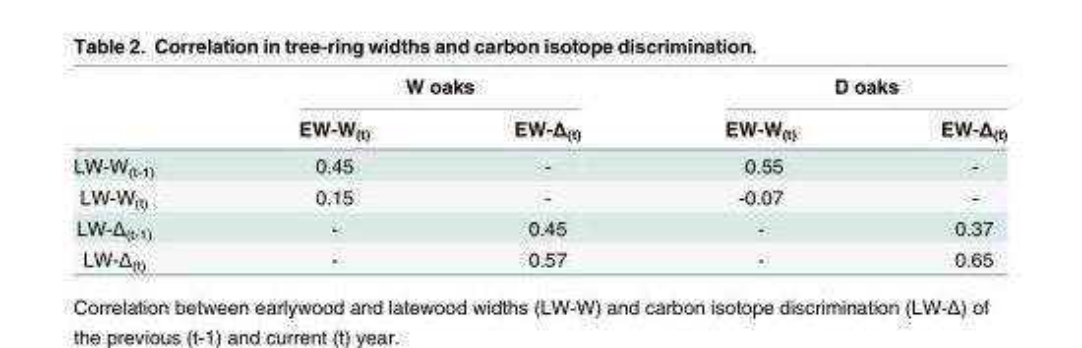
<table><thead><tr><td rowspan="2"></td><td colspan="2">W oaks</td><td colspan="2">D oaks</td></tr><tr><td>EW-W<sub>(t)</sub></td><td>EW-Δ<sub>(t)</sub></td><td>EW-W<sub>(t)</sub></td><td>EW-Δ<sub>(t)</sub></td></tr></thead><tbody><tr><td>LW-W<sub>(t-1)</sub></td><td>0.45</td><td>-</td><td>0.55</td><td>-</td></tr><tr><td>LW-W<sub>(t)</sub></td><td>0.15</td><td>-</td><td>-0.07</td><td>-</td></tr><tr><td>LW-Δ<sub>(t-1)</sub></td><td>-</td><td>0.45</td><td>-</td><td>0.37</td></tr><tr><td>LW-Δ<sub>(t)</sub></td><td>-</td><td>0.57</td><td>-</td><td>0.65</td></tr></tbody></table>